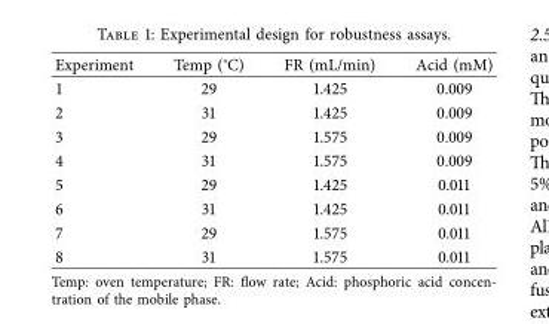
<table><thead><tr><td>Experiment</td><td>Temp (°C)</td><td>FR (mL/min)</td><td>Acid (mM)</td></tr></thead><tbody><tr><td>1</td><td>29</td><td>1.425</td><td>0.009</td></tr><tr><td>2</td><td>31</td><td>1.425</td><td>0.009</td></tr><tr><td>3</td><td>29</td><td>1.575</td><td>0.009</td></tr><tr><td>4</td><td>31</td><td>1.575</td><td>0.009</td></tr><tr><td>5</td><td>29</td><td>1.425</td><td>0.011</td></tr><tr><td>6</td><td>31</td><td>1.425</td><td>0.011</td></tr><tr><td>7</td><td>29</td><td>1.575</td><td>0.011</td></tr><tr><td>8</td><td>31</td><td>1.575</td><td>0.011</td></tr></tbody></table>